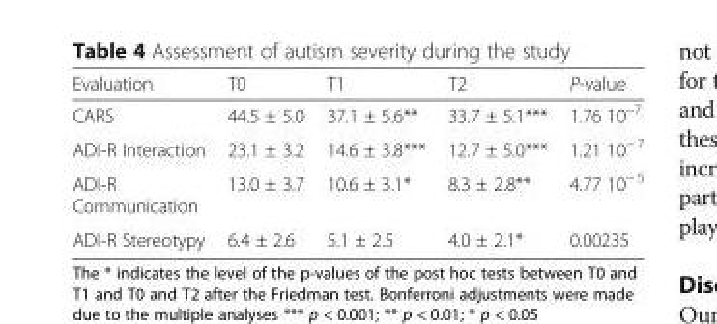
<table><thead><tr><td>Evaluation</td><td>T0</td><td>T1</td><td>T2</td><td>P-value</td></tr></thead><tbody><tr><td>CARS</td><td>44.5 ± 5.0</td><td>37.1 ± 5.6**</td><td>33.7 ± 5.1***</td><td>1.76 10<sup>−7</sup></td></tr><tr><td>ADI-R Interaction</td><td>23.1 ± 3.2</td><td>14.6 ± 3.8***</td><td>12.7 ± 5.0***</td><td>1.21 10<sup>− 7</sup></td></tr><tr><td>ADI-R Communication</td><td>13.0 ± 3.7</td><td>10.6 ± 3.1*</td><td>8.3 ± 2.8**</td><td>4.77 10<sup>− 5</sup></td></tr><tr><td>ADI-R Stereotypy</td><td>6.4 ± 2.6</td><td>5.1 ± 2.5</td><td>4.0 ± 2.1*</td><td>0.00235</td></tr></tbody></table>